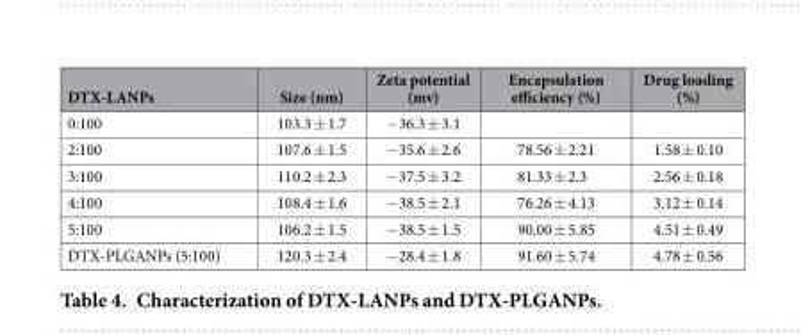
<table><thead><tr><td>DTX-LANPs</td><td>Size (nm)</td><td>Zeta potential (mv)</td><td>Encapsulation efficiency (%)</td><td>Drug loading (%)</td></tr></thead><tbody><tr><td>0:100</td><td>103.3 ± 1.7</td><td>− 36.3 ± 3.1</td><td></td><td></td></tr><tr><td>2:100</td><td>107.6 ± 1.5</td><td>− 35.6 ± 2.6</td><td>78.56 ± 2.21</td><td>1.58 ± 0.10</td></tr><tr><td>3:100</td><td>110.2 ± 2.3</td><td>− 37.5 ± 3.2</td><td>81.33 ± 2.3</td><td>2.56 ± 0.18</td></tr><tr><td>4:100</td><td>108.4 ± 1.6</td><td>− 38.5 ± 2.1</td><td>76.26 ± 4.13</td><td>3.12 ± 0.14</td></tr><tr><td>5:100</td><td>106.2 ± 1.5</td><td>− 38.5 ± 1.5</td><td>90.00 ± 5.85</td><td>4.51 ± 0.49</td></tr><tr><td>DTX-PLGANPs (5:100)</td><td>120.3 ± 2.4</td><td>− 28.4 ± 1.8</td><td>91.60 ± 5.74</td><td>4.78 ± 0.56</td></tr></tbody></table>